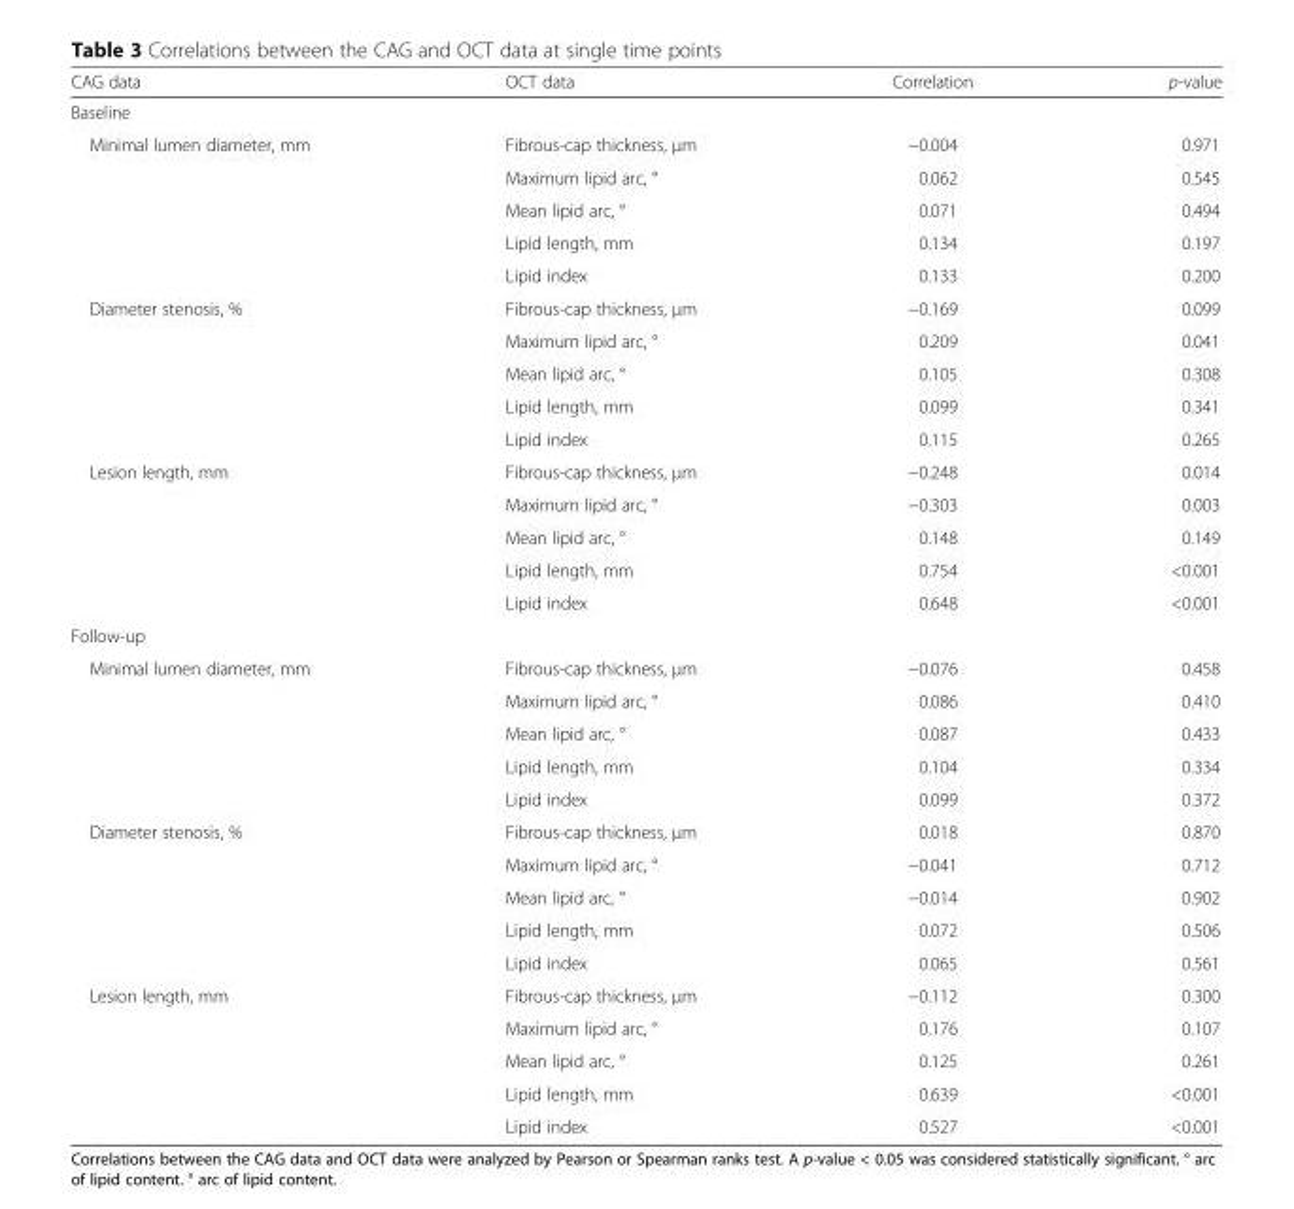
<table><thead><tr><td>CAG data</td><td>OCT data</td><td>Correlation</td><td>p-value</td></tr></thead><tbody><tr><td colspan="4">Baseline</td></tr><tr><td rowspan="5">Minimal lumen diameter, mm</td><td>Fibrous-cap thickness, μm</td><td>−0.004</td><td>0.971</td></tr><tr><td>Maximum lipid arc, °</td><td>0.062</td><td>0.545</td></tr><tr><td>Mean lipid arc, °</td><td>0.071</td><td>0.494</td></tr><tr><td>Lipid length, mm</td><td>0.134</td><td>0.197</td></tr><tr><td>Lipid index</td><td>0.133</td><td>0.200</td></tr><tr><td rowspan="5">Diameter stenosis, %</td><td>Fibrous-cap thickness, μm</td><td>−0.169</td><td>0.099</td></tr><tr><td>Maximum lipid arc, °</td><td>0.209</td><td>0.041</td></tr><tr><td>Mean lipid arc, °</td><td>0.105</td><td>0.308</td></tr><tr><td>Lipid length, mm</td><td>0.099</td><td>0.341</td></tr><tr><td>Lipid index</td><td>0.115</td><td>0.265</td></tr><tr><td rowspan="5">Lesion length, mm</td><td>Fibrous-cap thickness, μm</td><td>−0.248</td><td>0.014</td></tr><tr><td>Maximum lipid arc, °</td><td>−0.303</td><td>0.003</td></tr><tr><td>Mean lipid arc, °</td><td>0.148</td><td>0.149</td></tr><tr><td>Lipid length, mm</td><td>0.754</td><td>&lt;0.001</td></tr><tr><td>Lipid index</td><td>0.648</td><td>&lt;0.001</td></tr><tr><td colspan="4">Follow-up</td></tr><tr><td rowspan="5">Minimal lumen diameter, mm</td><td>Fibrous-cap thickness, μm</td><td>−0.076</td><td>0.458</td></tr><tr><td>Maximum lipid arc, °</td><td>0.086</td><td>0.410</td></tr><tr><td>Mean lipid arc, °</td><td>0.087</td><td>0.433</td></tr><tr><td>Lipid length, mm</td><td>0.104</td><td>0.334</td></tr><tr><td>Lipid index</td><td>0.099</td><td>0.372</td></tr><tr><td rowspan="5">Diameter stenosis, %</td><td>Fibrous-cap thickness, μm</td><td>0.018</td><td>0.870</td></tr><tr><td>Maximum lipid arc, °</td><td>−0.041</td><td>0.712</td></tr><tr><td>Mean lipid arc, °</td><td>−0.014</td><td>0.902</td></tr><tr><td>Lipid length, mm</td><td>0.072</td><td>0.506</td></tr><tr><td>Lipid index</td><td>0.065</td><td>0.561</td></tr><tr><td rowspan="5">Lesion length, mm</td><td>Fibrous-cap thickness, μm</td><td>−0.112</td><td>0.300</td></tr><tr><td>Maximum lipid arc, °</td><td>0.176</td><td>0.107</td></tr><tr><td>Mean lipid arc, °</td><td>0.125</td><td>0.261</td></tr><tr><td>Lipid length, mm</td><td>0.639</td><td>&lt;0.001</td></tr><tr><td>Lipid index</td><td>0.527</td><td>&lt;0.001</td></tr></tbody></table>